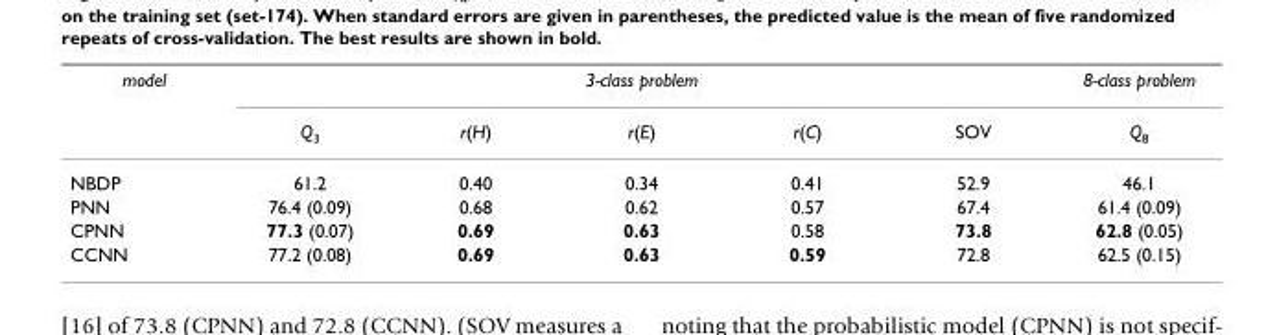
<table><thead><tr><td rowspan="2">model</td><td colspan="5">3-class problem</td><td rowspan="2">8-class problem Q<sub>8</sub></td></tr><tr><td>Q<sub>3</sub></td><td>r(H)</td><td>r(E)</td><td>r(C)</td><td>SOV</td></tr></thead><tbody><tr><td>NBDP</td><td>61.2</td><td>0.40</td><td>0.34</td><td>0.41</td><td>52.9</td><td>46.1</td></tr><tr><td>PNN</td><td>76.4 (0.09)</td><td>0.68</td><td>0.62</td><td>0.57</td><td>67.4</td><td>61.4 (0.09)</td></tr><tr><td>CPNN</td><td>77.3 (0.07)</td><td>0.69</td><td>0.63</td><td>0.58</td><td>73.8</td><td>62.8 (0.05)</td></tr><tr><td>CCNN</td><td>77.2 (0.08)</td><td>0.69</td><td>0.63</td><td>0.59</td><td>72.8</td><td>62.5 (0.15)</td></tr></tbody></table>